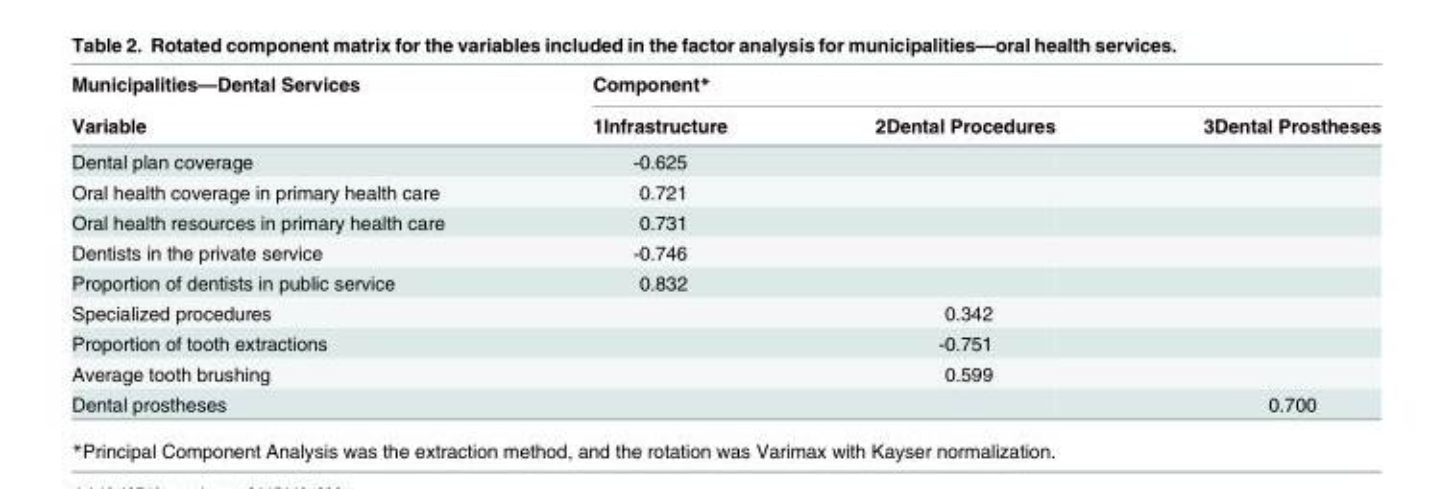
<table><thead><tr><td rowspan="2">Municipalities—Dental Services Variable</td><td colspan="3">Component*</td></tr><tr><td>1Infrastructure</td><td>2Dental Procedures</td><td>3Dental Prostheses</td></tr></thead><tbody><tr><td>Dental plan coverage</td><td>-0.625</td><td></td><td></td></tr><tr><td>Oral health coverage in primary health care</td><td>0.721</td><td></td><td></td></tr><tr><td>Oral health resources in primary health care</td><td>0.731</td><td></td><td></td></tr><tr><td>Dentists in the private service</td><td>-0.746</td><td></td><td></td></tr><tr><td>Proportion of dentists in public service</td><td>0.832</td><td></td><td></td></tr><tr><td>Specialized procedures</td><td></td><td>0.342</td><td></td></tr><tr><td>Proportion of tooth extractions</td><td></td><td>-0.751</td><td></td></tr><tr><td>Average tooth brushing</td><td></td><td>0.599</td><td></td></tr><tr><td>Dental prostheses</td><td></td><td></td><td>0.700</td></tr></tbody></table>